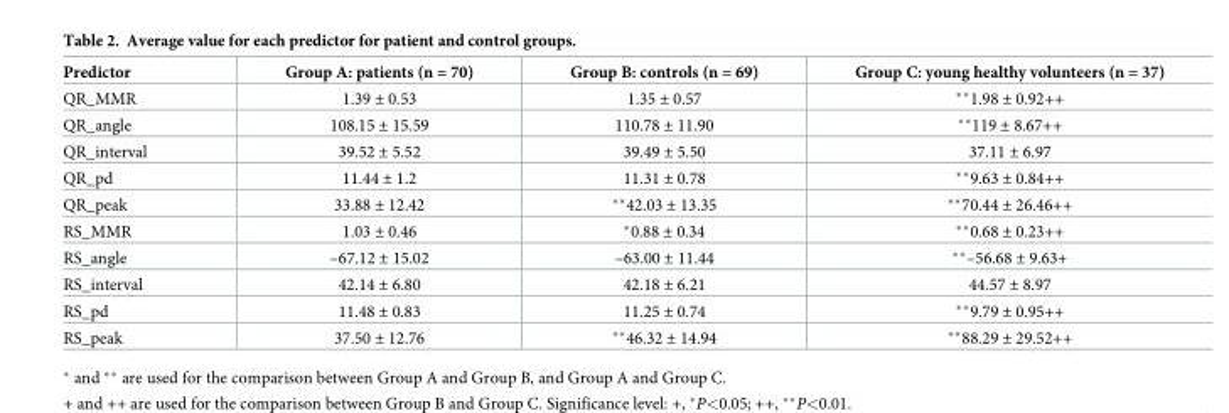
<table><thead><tr><td>Predictor</td><td>Group A: patients (n = 70)</td><td>Group B: controls (n = 69)</td><td>Group C: young healthy volunteers (n = 37)</td></tr></thead><tbody><tr><td>QR_MMR</td><td>1.39 ± 0.53</td><td>1.35 ± 0.57</td><td>**1.98 ± 0.92++</td></tr><tr><td>QR_angle</td><td>108.15 ± 15.59</td><td>110.78 ± 11.90</td><td>**119 ± 8.67++</td></tr><tr><td>QR_interval</td><td>39.52 ± 5.52</td><td>39.49 ± 5.50</td><td>37.11 ± 6.97</td></tr><tr><td>QR_pd</td><td>11.44 ± 1.2</td><td>11.31 ± 0.78</td><td>**9.63 ± 0.84++</td></tr><tr><td>QR_peak</td><td>33.88 ± 12.42</td><td>**42.03 ± 13.35</td><td>**70.44 ± 26.46++</td></tr><tr><td>RS_MMR</td><td>1.03 ± 0.46</td><td>*0.88 ± 0.34</td><td>**0.68 ± 0.23++</td></tr><tr><td>RS_angle</td><td>–67.12 ± 15.02</td><td>–63.00 ± 11.44</td><td>**–56.68 ± 9.63+</td></tr><tr><td>RS_interval</td><td>42.14 ± 6.80</td><td>42.18 ± 6.21</td><td>44.57 ± 8.97</td></tr><tr><td>RS_pd</td><td>11.48 ± 0.83</td><td>11.25 ± 0.74</td><td>**9.79 ± 0.95++</td></tr><tr><td>RS_peak</td><td>37.50 ± 12.76</td><td>**46.32 ± 14.94</td><td>**88.29 ± 29.52++</td></tr></tbody></table>